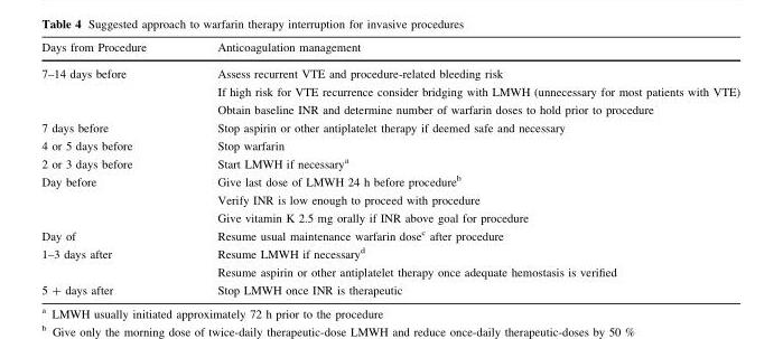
<table><thead><tr><td>Days from Procedure</td><td>Anticoagulation management</td></tr></thead><tbody><tr><td rowspan="3">7–14 days before</td><td>Assess recurrent VTE and procedure-related bleeding risk</td></tr><tr><td>If high risk for VTE recurrence consider bridging with LMWH (unnecessary for most patients with VTE)</td></tr><tr><td>Obtain baseline INR and determine number of warfarin doses to hold prior to procedure</td></tr><tr><td>7 days before</td><td>Stop aspirin or other antiplatelet therapy if deemed safe and necessary</td></tr><tr><td>4 or 5 days before</td><td>Stop warfarin</td></tr><tr><td>2 or 3 days before</td><td>Start LMWH if necessary<sup>a</sup></td></tr><tr><td rowspan="2">Day before</td><td>Give last dose of LMWH 24 h before procedure<sup>b</sup></td></tr><tr><td>Verify INR is low enough to proceed with procedure Give vitamin K 2.5 mg orally if INR above goal for procedure</td></tr><tr><td>Day of</td><td>Resume usual maintenance warfarin dose<sup>c</sup> after procedure</td></tr><tr><td rowspan="2">1–3 days after</td><td>Resume LMWH if necessary<sup>d</sup></td></tr><tr><td>Resume aspirin or other antiplatelet therapy once adequate hemostasis is verified</td></tr><tr><td>5 + days after</td><td>Stop LMWH once INR is therapeutic</td></tr></tbody></table>